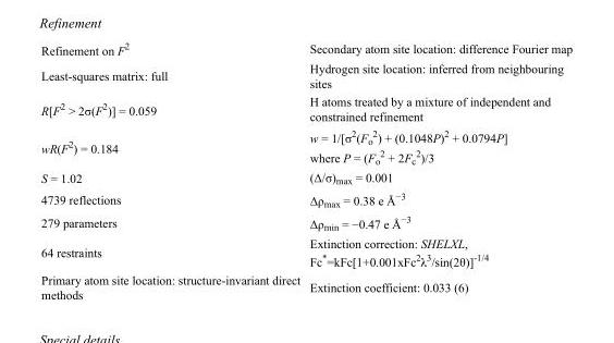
<table><tbody><tr><td>Refinement on F<sup>2</sup></td><td>Secondary atom site location: difference Fourier map</td></tr><tr><td>Least-squares matrix: full</td><td>Hydrogen site location: inferred from neighbouring sites</td></tr><tr><td>R[F<sup>2</sup> &gt; 2σ(F<sup>2</sup>)] = 0.059</td><td>H atoms treated by a mixture of independent and constrained refinement</td></tr><tr><td>wR(F<sup>2</sup>) = 0.184</td><td>w = 1/[σ<sup>2</sup>(F<sub>o</sub> <sup>2</sup>) + (0.1048P)<sup>2</sup> + 0.0794P] where P = (F<sub>o</sub> <sup>2</sup> + 2F<sub>c</sub> <sup>2</sup>)/3</td></tr><tr><td>S = 1.02</td><td>(Δ/σ)<sub>max</sub> = 0.001</td></tr><tr><td>4739 reflections</td><td>Δρ<sub>max</sub> = 0.38 e Å<sup>−3</sup></td></tr><tr><td>279 parameters</td><td>Δρ<sub>min</sub> = −0.47 e Å<sup>−3</sup></td></tr><tr><td>64 restraints</td><td>Extinction correction: SHELXL, Fc*=kFc[1+0.001xFc<sup>2</sup>λ<sup>3</sup>/sin(2θ)]<sup>-1/4</sup></td></tr><tr><td>Primary atom site location: structure-invariant direct methods</td><td>Extinction coefficient: 0.033 (6)</td></tr></tbody></table>